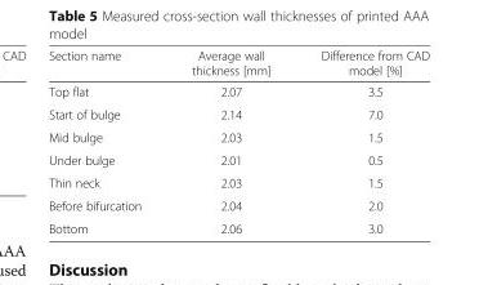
<table><thead><tr><td>Section name</td><td>Average wall thickness [mm]</td><td>Difference from CAD model [%]</td></tr></thead><tbody><tr><td>Top flat</td><td>2.07</td><td>3.5</td></tr><tr><td>Start of bulge</td><td>2.14</td><td>7.0</td></tr><tr><td>Mid bulge</td><td>2.03</td><td>1.5</td></tr><tr><td>Under bulge</td><td>2.01</td><td>0.5</td></tr><tr><td>Thin neck</td><td>2.03</td><td>1.5</td></tr><tr><td>Before bifurcation</td><td>2.04</td><td>2.0</td></tr><tr><td>Bottom</td><td>2.06</td><td>3.0</td></tr></tbody></table>